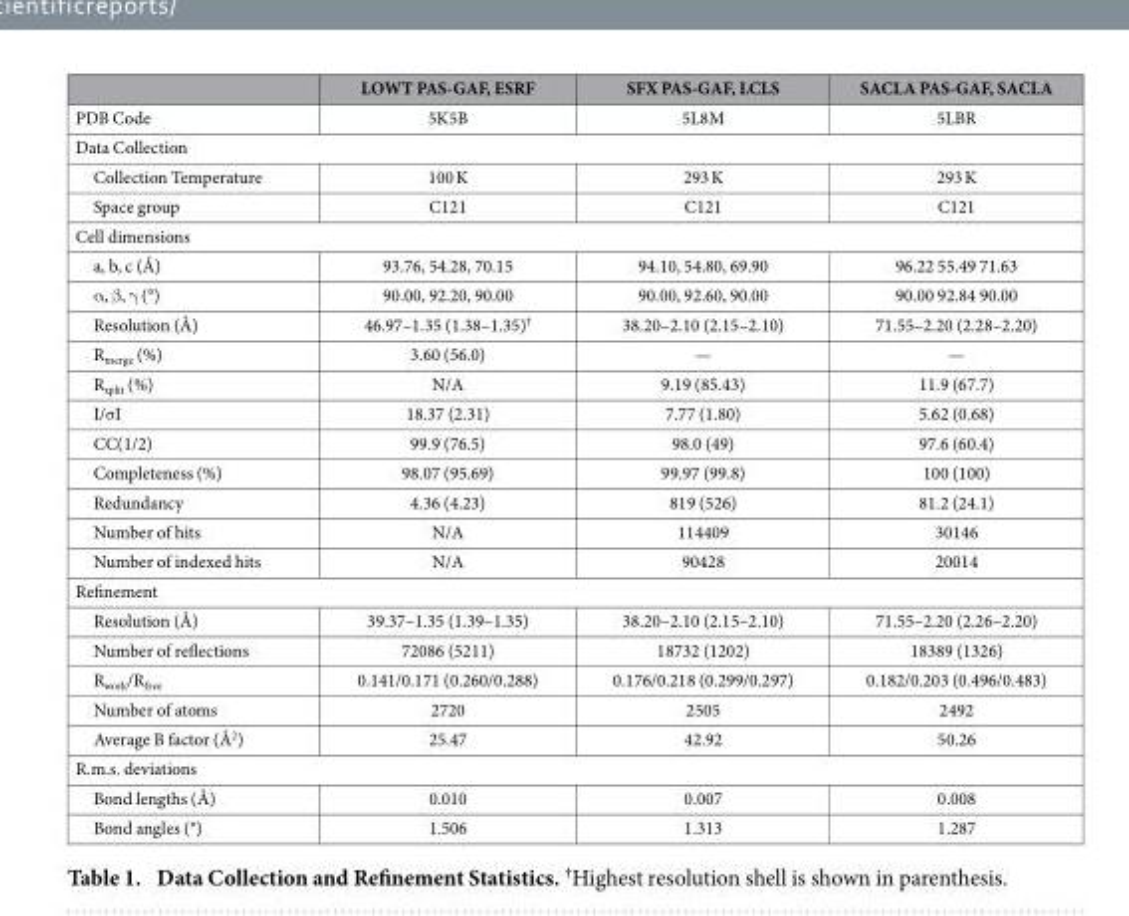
<table><thead><tr><td></td><td>LOWT PAS-GAF, ESRF</td><td>SFX PAS-GAF, LCLS</td><td>SACLA PAS-GAF, SACLA</td></tr></thead><tbody><tr><td>PDB Code</td><td>5K5B</td><td>5L8M</td><td>5LBR</td></tr><tr><td colspan="4">Data Collection</td></tr><tr><td>Collection Temperature</td><td>100 K</td><td>293 K</td><td>293 K</td></tr><tr><td>Space group</td><td>C121</td><td>C121</td><td>C121</td></tr><tr><td colspan="4">Cell dimensions</td></tr><tr><td>a, b, c (Å)</td><td>93.76, 54.28, 70.15</td><td>94.10, 54.80, 69.90</td><td>96.22 55.49 71.63</td></tr><tr><td>α , β , γ (°)</td><td>90.00, 92.20, 90.00</td><td>90.00, 92.60, 90.00</td><td>90.00 92.84 90.00</td></tr><tr><td>Resolution (Å)</td><td>46.97–1.35 (1.38–1.35)†</td><td>38.20–2.10 (2.15–2.10)</td><td>71.55–2.20 (2.28–2.20)</td></tr><tr><td>R<sub>merge</sub> (%)</td><td>3.60 (56.0)</td><td>—</td><td>—</td></tr><tr><td>R<sub>split</sub> (%)</td><td>N/A</td><td>9.19 (85.43)</td><td>11.9 (67.7)</td></tr><tr><td>I/σ I</td><td>18.37 (2.31)</td><td>7.77 (1.80)</td><td>5.62 (0.68)</td></tr><tr><td>CC(1/2)</td><td>99.9 (76.5)</td><td>98.0 (49)</td><td>97.6 (60.4)</td></tr><tr><td>Completeness (%)</td><td>98.07 (95.69)</td><td>99.97 (99.8)</td><td>100 (100)</td></tr><tr><td>Redundancy</td><td>4.36 (4.23)</td><td>819 (526)</td><td>81.2 (24.1)</td></tr><tr><td>Number of hits</td><td>N/A</td><td>114409</td><td>30146</td></tr><tr><td>Number of indexed hits</td><td>N/A</td><td>90428</td><td>20014</td></tr><tr><td colspan="4">Refinement</td></tr><tr><td>Resolution (Å)</td><td>39.37–1.35 (1.39–1.35)</td><td>38.20–2.10 (2.15–2.10)</td><td>71.55–2.20 (2.26–2.20)</td></tr><tr><td>Number of reflections</td><td>72086 (5211)</td><td>18732 (1202)</td><td>18389 (1326)</td></tr><tr><td>R<sub>work</sub>/R<sub>free</sub></td><td>0.141/0.171 (0.260/0.288)</td><td>0.176/0.218 (0.299/0.297)</td><td>0.182/0.203 (0.496/0.483)</td></tr><tr><td>Number of atoms</td><td>2720</td><td>2505</td><td>2492</td></tr><tr><td>Average B factor (Å<sup>2</sup>)</td><td>25.47</td><td>42.92</td><td>50.26</td></tr><tr><td colspan="4">R.m.s. deviations</td></tr><tr><td>Bond lengths (Å)</td><td>0.010</td><td>0.007</td><td>0.008</td></tr><tr><td>Bond angles (°)</td><td>1.506</td><td>1.313</td><td>1.287</td></tr></tbody></table>